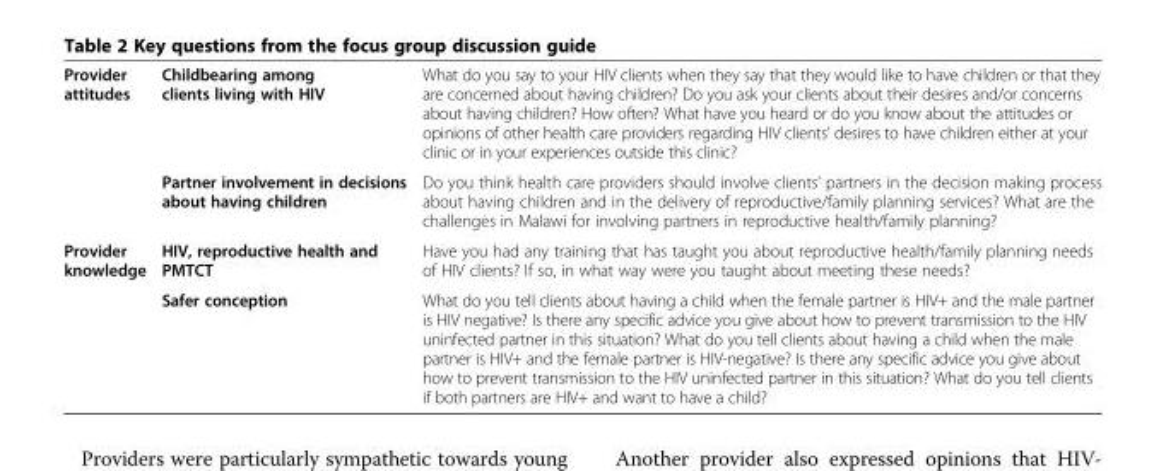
<table><tbody><tr><td rowspan="2">Provider attitudes</td><td>Childbearing among clients living with HIV</td><td>What do you say to your HIV clients when they say that they would like to have children or that they are concerned about having children? Do you ask your clients about their desires and/or concerns about having children? How often? What have you heard or do you know about the attitudes or opinions of other health care providers regarding HIV clients’ desires to have children either at your clinic or in your experiences outside this clinic?</td></tr><tr><td>Partner involvement in decisions about having children</td><td>Do you think health care providers should involve clients’ partners in the decision making process about having children and in the delivery of reproductive/family planning services? What are the challenges in Malawi for involving partners in reproductive health/family planning?</td></tr><tr><td rowspan="2">Provider knowledge</td><td>HIV, reproductive health and PMTCT</td><td>Have you had any training that has taught you about reproductive health/family planning needs of HIV clients? If so, in what way were you taught about meeting these needs?</td></tr><tr><td>Safer conception</td><td>What do you tell clients about having a child when the female partner is HIV+ and the male partner is HIV negative? Is there any specific advice you give about how to prevent transmission to the HIV uninfected partner in this situation? What do you tell clients about having a child when the male partner is HIV+ and the female partner is HIV-negative? Is there any specific advice you give about how to prevent transmission to the HIV uninfected partner in this situation? What do you tell clients if both partners are HIV+ and want to have a child?</td></tr></tbody></table>